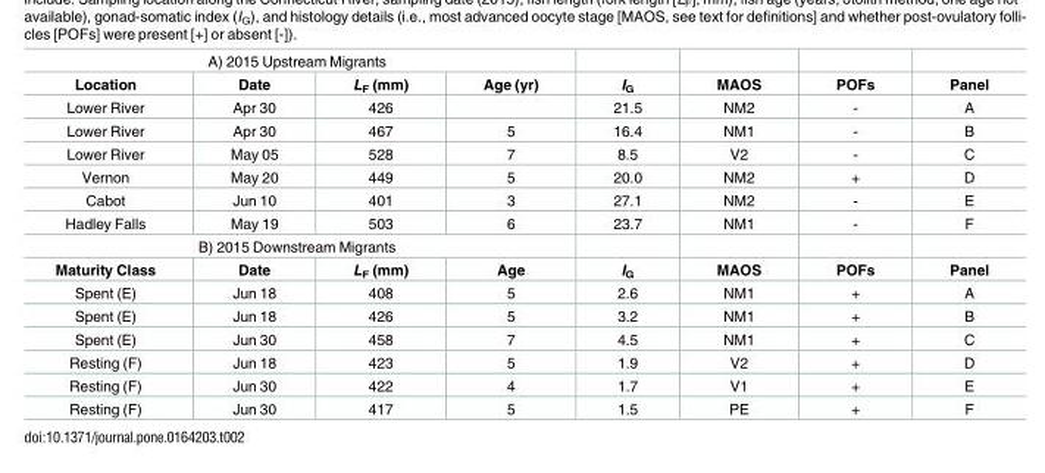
<table><tbody><tr><td colspan="8">A) 2015 Upstream Migrants</td></tr><tr><td>Location</td><td>Date</td><td>L<sub>F</sub> (mm)</td><td>Age (yr)</td><td>I<sub>G</sub></td><td>MAOS</td><td>POFs</td><td>Panel</td></tr><tr><td>Lower River</td><td>Apr 30</td><td>426</td><td></td><td>21.5</td><td>NM2</td><td>-</td><td>A</td></tr><tr><td>Lower River</td><td>Apr 30</td><td>467</td><td>5</td><td>16.4</td><td>NM1</td><td>-</td><td>B</td></tr><tr><td>Lower River</td><td>May 05</td><td>528</td><td>7</td><td>8.5</td><td>V2</td><td>-</td><td>C</td></tr><tr><td>Vernon</td><td>May 20</td><td>449</td><td>5</td><td>20.0</td><td>NM2</td><td>+</td><td>D</td></tr><tr><td>Cabot</td><td>Jun 10</td><td>401</td><td>3</td><td>27.1</td><td>NM2</td><td>-</td><td>E</td></tr><tr><td>Hadley Falls</td><td>May 19</td><td>503</td><td>6</td><td>23.7</td><td>NM1</td><td>-</td><td>F</td></tr><tr><td colspan="8">B) 2015 Downstream Migrants</td></tr><tr><td>Maturity Class</td><td>Date</td><td>L<sub>F</sub> (mm)</td><td>Age</td><td>I<sub>G</sub></td><td>MAOS</td><td>POFs</td><td>Panel</td></tr><tr><td>Spent (E)</td><td>Jun 18</td><td>408</td><td>5</td><td>2.6</td><td>NM1</td><td>+</td><td>A</td></tr><tr><td>Spent (E)</td><td>Jun 18</td><td>426</td><td>5</td><td>3.2</td><td>NM1</td><td>+</td><td>B</td></tr><tr><td>Spent (E)</td><td>Jun 30</td><td>458</td><td>7</td><td>4.5</td><td>NM1</td><td>+</td><td>C</td></tr><tr><td>Resting (F)</td><td>Jun 18</td><td>423</td><td>5</td><td>1.9</td><td>V2</td><td>+</td><td>D</td></tr><tr><td>Resting (F)</td><td>Jun 30</td><td>422</td><td>4</td><td>1.7</td><td>V1</td><td>+</td><td>E</td></tr><tr><td>Resting (F)</td><td>Jun 30</td><td>417</td><td>5</td><td>1.5</td><td>PE</td><td>+</td><td>F</td></tr></tbody></table>